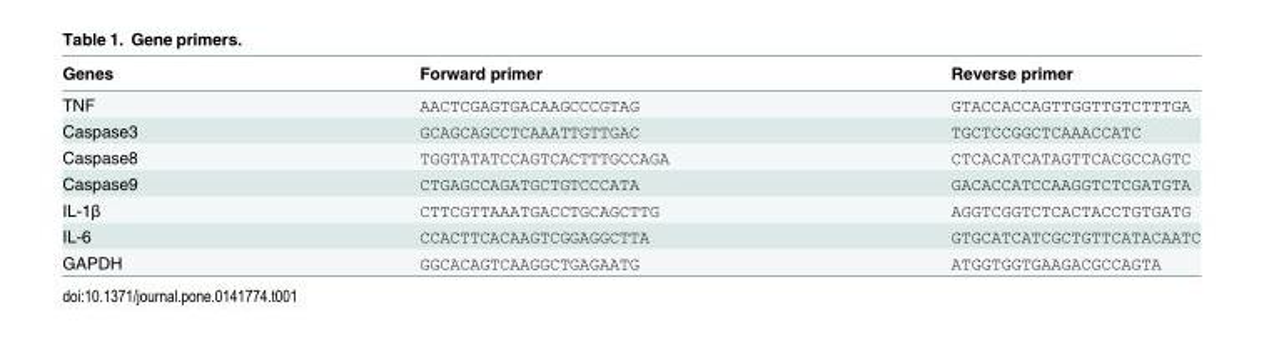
<table><thead><tr><td>Genes</td><td>Forward primer</td><td>Reverse primer</td></tr></thead><tbody><tr><td>TNF</td><td>AACTCGAGTGACAAGCCCGTAG</td><td>GTACCACCAGTTGGTTGTCTTTGA</td></tr><tr><td>Caspase3</td><td>GCAGCAGCCTCAAATTGTTGAC</td><td>TGCTCCGGCTCAAACCATC</td></tr><tr><td>Caspase8</td><td>TGGTATATCCAGTCACTTTGCCAGA</td><td>CTCACATCATAGTTCACGCCAGTC</td></tr><tr><td>Caspase9</td><td>CTGAGCCAGATGCTGTCCCATA</td><td>GACACCATCCAAGGTCTCGATGTA</td></tr><tr><td>IL-1β</td><td>CTTCGTTAAATGACCTGCAGCTTG</td><td>AGGTCGGTCTCACTACCTGTGATG</td></tr><tr><td>IL-6</td><td>CCACTTCACAAGTCGGAGGCTTA</td><td>GTGCATCATCGCTGTTCATACAATC</td></tr><tr><td>GAPDH</td><td>GGCACAGTCAAGGCTGAGAATG</td><td>ATGGTGGTGAAGACGCCAGTA</td></tr></tbody></table>